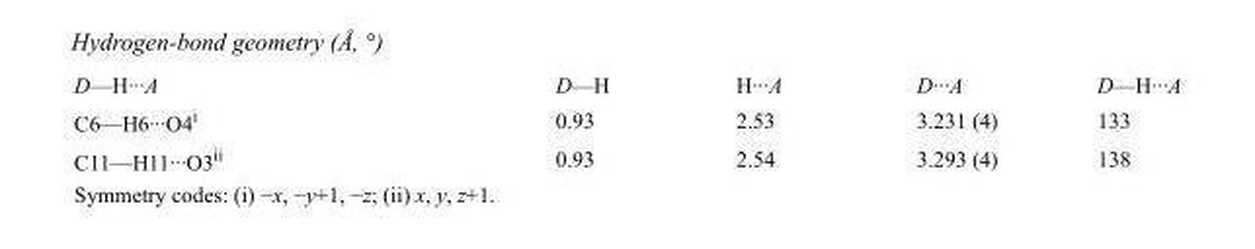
<table><tbody><tr><td>D—H···A</td><td>D—H</td><td>H···A</td><td>D···A</td><td>D—H···A</td></tr><tr><td>C6—H6···O4<sup>i</sup></td><td>0.93</td><td>2.53</td><td>3.231 (4)</td><td>133</td></tr><tr><td>C11—H11···O3<sup>ii</sup></td><td>0.93</td><td>2.54</td><td>3.293 (4)</td><td>138</td></tr></tbody></table>